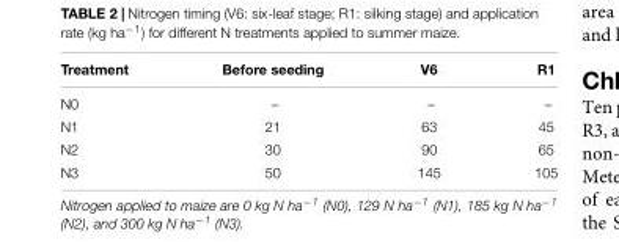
<table><thead><tr><td>Treatment</td><td>Before seeding</td><td>V6</td><td>R1</td></tr></thead><tbody><tr><td>N0</td><td>–</td><td>–</td><td>–</td></tr><tr><td>N1</td><td>21</td><td>63</td><td>45</td></tr><tr><td>N2</td><td>30</td><td>90</td><td>65</td></tr><tr><td>N3</td><td>50</td><td>145</td><td>105</td></tr></tbody></table>